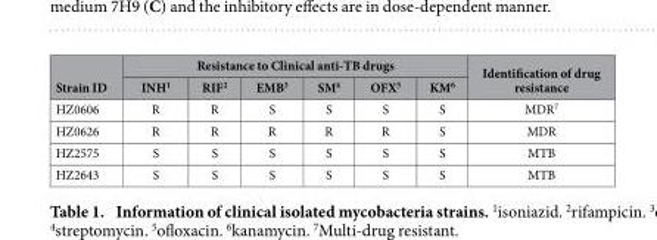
<table><thead><tr><td rowspan="2">Strain ID</td><td colspan="6">Resistance to Clinical anti-TB drugs</td><td rowspan="2">Identification of drug resistance</td></tr><tr><td>INH<sup>1</sup></td><td>RIF<sup>2</sup></td><td>EMB<sup>3</sup></td><td>SM<sup>4</sup></td><td>OFX<sup>5</sup></td><td>KM<sup>6</sup></td></tr></thead><tbody><tr><td>HZ0606</td><td>R</td><td>R</td><td>S</td><td>S</td><td>S</td><td>S</td><td>MDR<sup>7</sup></td></tr><tr><td>HZ0626</td><td>R</td><td>R</td><td>R</td><td>R</td><td>R</td><td>S</td><td>MDR</td></tr><tr><td>HZ2575</td><td>S</td><td>S</td><td>S</td><td>S</td><td>S</td><td>S</td><td>MTB</td></tr><tr><td>HZ2643</td><td>S</td><td>S</td><td>S</td><td>S</td><td>S</td><td>S</td><td>MTB</td></tr></tbody></table>